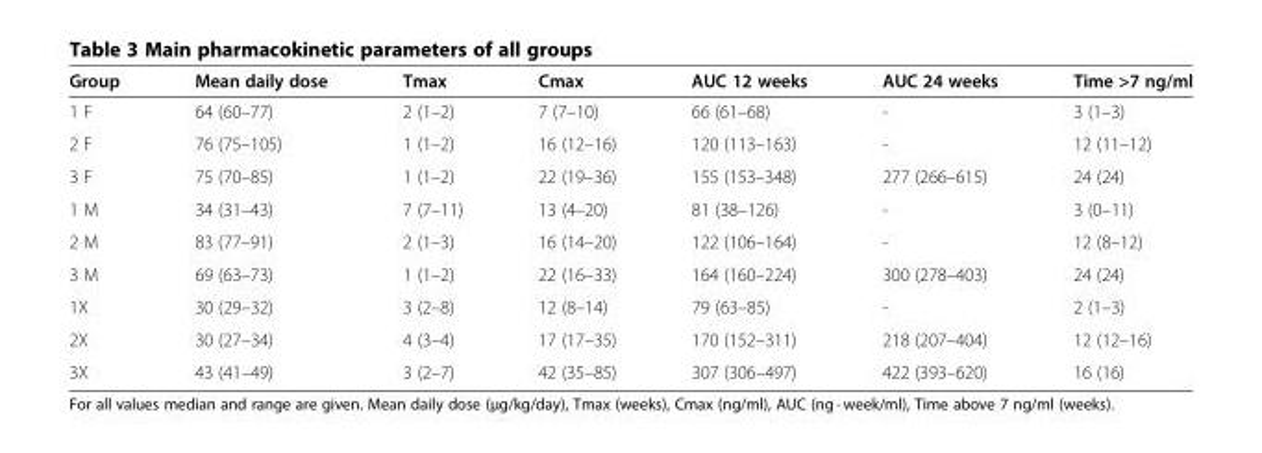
<table><thead><tr><td>Group</td><td>Mean daily dose</td><td>Tmax</td><td>Cmax</td><td>AUC 12 weeks</td><td>AUC 24 weeks</td><td>Time &gt;7 ng/ml</td></tr></thead><tbody><tr><td>1 F</td><td>64 (60–77)</td><td>2 (1–2)</td><td>7 (7–10)</td><td>66 (61–68)</td><td>-</td><td>3 (1–3)</td></tr><tr><td>2 F</td><td>76 (75–105)</td><td>1 (1–2)</td><td>16 (12–16)</td><td>120 (113–163)</td><td>-</td><td>12 (11–12)</td></tr><tr><td>3 F</td><td>75 (70–85)</td><td>1 (1–2)</td><td>22 (19–36)</td><td>155 (153–348)</td><td>277 (266–615)</td><td>24 (24)</td></tr><tr><td>1 M</td><td>34 (31–43)</td><td>7 (7–11)</td><td>13 (4–20)</td><td>81 (38–126)</td><td>-</td><td>3 (0–11)</td></tr><tr><td>2 M</td><td>83 (77–91)</td><td>2 (1–3)</td><td>16 (14–20)</td><td>122 (106–164)</td><td>-</td><td>12 (8–12)</td></tr><tr><td>3 M</td><td>69 (63–73)</td><td>1 (1–2)</td><td>22 (16–33)</td><td>164 (160–224)</td><td>300 (278–403)</td><td>24 (24)</td></tr><tr><td>1X</td><td>30 (29–32)</td><td>3 (2–8)</td><td>12 (8–14)</td><td>79 (63–85)</td><td>-</td><td>2 (1–3)</td></tr><tr><td>2X</td><td>30 (27–34)</td><td>4 (3–4)</td><td>17 (17–35)</td><td>170 (152–311)</td><td>218 (207–404)</td><td>12 (12–16)</td></tr><tr><td>3X</td><td>43 (41–49)</td><td>3 (2–7)</td><td>42 (35–85)</td><td>307 (306–497)</td><td>422 (393–620)</td><td>16 (16)</td></tr></tbody></table>